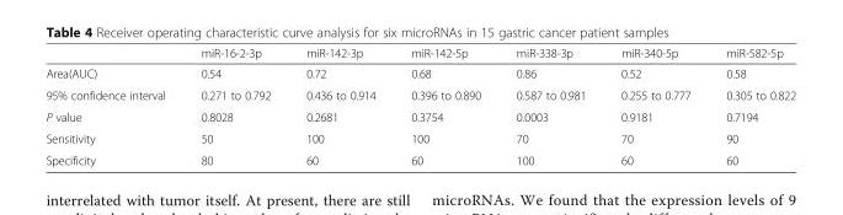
<table><thead><tr><td></td><td>miR-16-2-3p</td><td>miR-142-3p</td><td>miR-142-5p</td><td>miR-338-3p</td><td>miR-340-5p</td><td>miR-582-5p</td></tr></thead><tbody><tr><td>Area(AUC)</td><td>0.54</td><td>0.72</td><td>0.68</td><td>0.86</td><td>0.52</td><td>0.58</td></tr><tr><td>95% confidence interval</td><td>0.271 to 0.792</td><td>0.436 to 0.914</td><td>0.396 to 0.890</td><td>0.587 to 0.981</td><td>0.255 to 0.777</td><td>0.305 to 0.822</td></tr><tr><td>P value</td><td>0.8028</td><td>0.2681</td><td>0.3754</td><td>0.0003</td><td>0.9181</td><td>0.7194</td></tr><tr><td>Sensitivity</td><td>50</td><td>100</td><td>100</td><td>70</td><td>70</td><td>90</td></tr><tr><td>Specificity</td><td>80</td><td>60</td><td>60</td><td>100</td><td>60</td><td>60</td></tr></tbody></table>